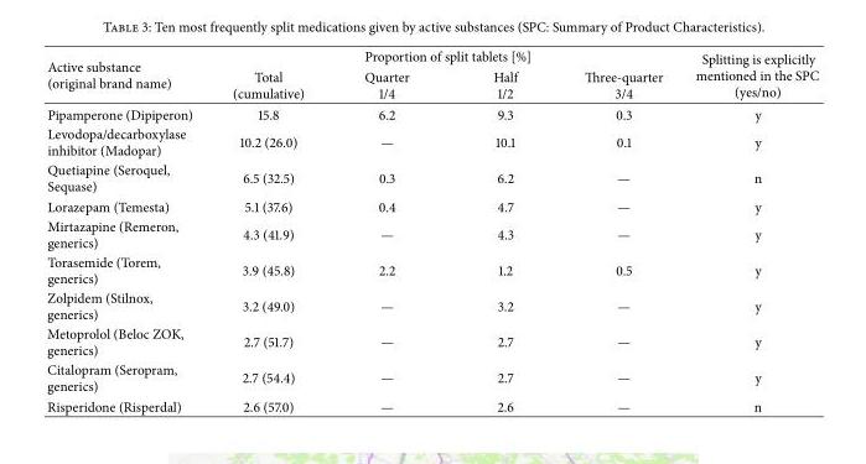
<table><thead><tr><td rowspan="2">Active substance (original brand name)</td><td colspan="4">Proportion of split tablets [%]</td><td rowspan="2">Splitting is explicitly mentioned in the SPC (yes/no)</td></tr><tr><td>Total (cumulative)</td><td>Quarter 1/4</td><td>Half 1/2</td><td>Three-quarter 3/4</td></tr></thead><tbody><tr><td>Pipamperone (Dipiperon)</td><td>15.8</td><td>6.2</td><td>9.3</td><td>0.3</td><td>y</td></tr><tr><td>Levodopa/decarboxylase inhibitor (Madopar)</td><td>10.2 (26.0)</td><td>—</td><td>10.1</td><td>0.1</td><td>y</td></tr><tr><td>Quetiapine (Seroquel, Sequase)</td><td>6.5 (32.5)</td><td>0.3</td><td>6.2</td><td>—</td><td>n</td></tr><tr><td>Lorazepam (Temesta)</td><td>5.1 (37.6)</td><td>0.4</td><td>4.7</td><td>—</td><td>y</td></tr><tr><td>Mirtazapine (Remeron, generics)</td><td>4.3 (41.9)</td><td>—</td><td>4.3</td><td>—</td><td>y</td></tr><tr><td>Torasemide (Torem, generics)</td><td>3.9 (45.8)</td><td>2.2</td><td>1.2</td><td>0.5</td><td>y</td></tr><tr><td>Zolpidem (Stilnox, generics)</td><td>3.2 (49.0)</td><td>—</td><td>3.2</td><td>—</td><td>y</td></tr><tr><td>Metoprolol (Beloc ZOK, generics)</td><td>2.7 (51.7)</td><td>—</td><td>2.7</td><td>—</td><td>y</td></tr><tr><td>Citalopram (Seropram, generics)</td><td>2.7 (54.4)</td><td>—</td><td>2.7</td><td>—</td><td>y</td></tr><tr><td>Risperidone (Risperdal)</td><td>2.6 (57.0)</td><td>—</td><td>2.6</td><td>—</td><td>n</td></tr></tbody></table>